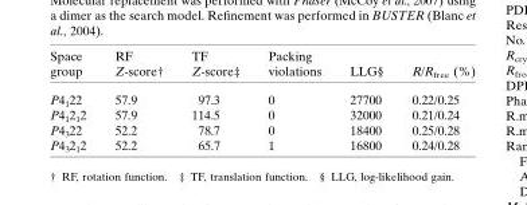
<table><thead><tr><td>Space group</td><td>RF Z-score†</td><td>TF Z-score‡</td><td>Packing violations</td><td>LLG§</td><td>R/R<sub>free</sub> (%)</td></tr></thead><tbody><tr><td>P4<sub>1</sub>22</td><td>57.9</td><td>97.3</td><td>0</td><td>27700</td><td>0.22/0.25</td></tr><tr><td>P4<sub>1</sub>2<sub>1</sub>2</td><td>57.9</td><td>114.5</td><td>0</td><td>32000</td><td>0.21/0.24</td></tr><tr><td>P4<sub>3</sub>22</td><td>52.2</td><td>78.7</td><td>0</td><td>18400</td><td>0.25/0.28</td></tr><tr><td>P4<sub>3</sub>2<sub>1</sub>2</td><td>52.2</td><td>65.7</td><td>1</td><td>16800</td><td>0.24/0.28</td></tr></tbody></table>